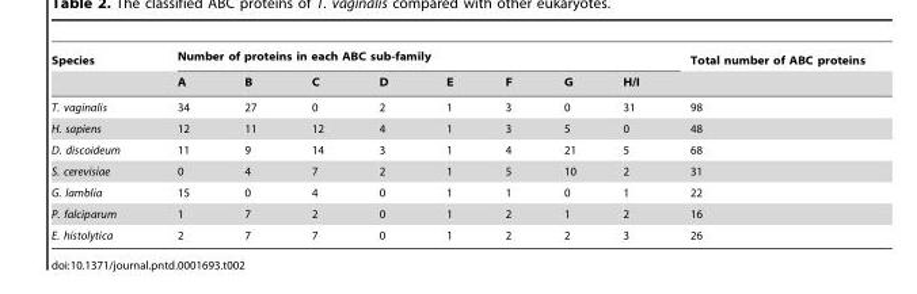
<table><thead><tr><td rowspan="2">Species</td><td colspan="8">Number of proteins in each ABC sub-family</td><td rowspan="2">Total number of ABC proteins</td></tr><tr><td>A</td><td>B</td><td>C</td><td>D</td><td>E</td><td>F</td><td>G</td><td>H/I</td></tr></thead><tbody><tr><td>T. vaginalis</td><td>34</td><td>27</td><td>0</td><td>2</td><td>1</td><td>3</td><td>0</td><td>31</td><td>98</td></tr><tr><td>H. sapiens</td><td>12</td><td>11</td><td>12</td><td>4</td><td>1</td><td>3</td><td>5</td><td>0</td><td>48</td></tr><tr><td>D. discoideum</td><td>11</td><td>9</td><td>14</td><td>3</td><td>1</td><td>4</td><td>21</td><td>5</td><td>68</td></tr><tr><td>S. cerevisiae</td><td>0</td><td>4</td><td>7</td><td>2</td><td>1</td><td>5</td><td>10</td><td>2</td><td>31</td></tr><tr><td>G. lamblia</td><td>15</td><td>0</td><td>4</td><td>0</td><td>1</td><td>1</td><td>0</td><td>1</td><td>22</td></tr><tr><td>P. falciparum</td><td>1</td><td>7</td><td>2</td><td>0</td><td>1</td><td>2</td><td>1</td><td>2</td><td>16</td></tr><tr><td>E. histolytica</td><td>2</td><td>7</td><td>7</td><td>0</td><td>1</td><td>2</td><td>2</td><td>3</td><td>26</td></tr></tbody></table>